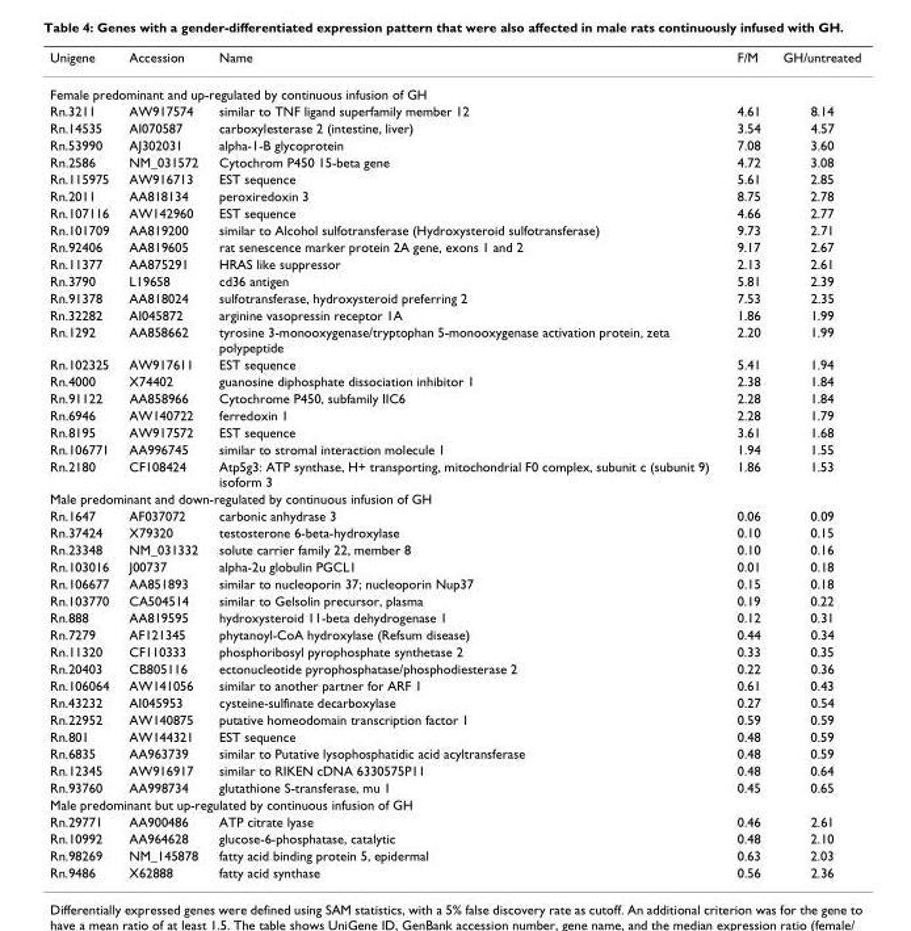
<table><thead><tr><td>Unigene</td><td>Accession</td><td>Name</td><td>F/M</td><td>GH/untreated</td></tr></thead><tbody><tr><td colspan="5">Female predominant and up-regulated by continuous infusion of GH</td></tr><tr><td>Rn.3211</td><td>AW917574</td><td>similar to TNF ligand superfamily member 12</td><td>4.61</td><td>8.14</td></tr><tr><td>Rn.14535</td><td>AI070587</td><td>carboxylesterase 2 (intestine, liver)</td><td>3.54</td><td>4.57</td></tr><tr><td>Rn.53990</td><td>AJ302031</td><td>alpha-1-B glycoprotein</td><td>7.08</td><td>3.60</td></tr><tr><td>Rn.2586</td><td>NM_031572</td><td>Cytochrom P450 15-beta gene</td><td>4.72</td><td>3.08</td></tr><tr><td>Rn.115975</td><td>AW916713</td><td>EST sequence</td><td>5.61</td><td>2.85</td></tr><tr><td>Rn.2011</td><td>AA818134</td><td>peroxiredoxin 3</td><td>8.75</td><td>2.78</td></tr><tr><td>Rn.107116</td><td>AW142960</td><td>EST sequence</td><td>4.66</td><td>2.77</td></tr><tr><td>Rn.101709</td><td>AA819200</td><td>similar to Alcohol sulfotransferase (Hydroxysteroid sulfotransferase)</td><td>9.73</td><td>2.71</td></tr><tr><td>Rn.92406</td><td>AA819605</td><td>rat senescence marker protein 2A gene, exons 1 and 2</td><td>9.17</td><td>2.67</td></tr><tr><td>Rn.11377</td><td>AA875291</td><td>HRAS like suppressor</td><td>2.13</td><td>2.61</td></tr><tr><td>Rn.3790</td><td>L19658</td><td>cd36 antigen</td><td>5.81</td><td>2.39</td></tr><tr><td>Rn.91378</td><td>AA818024</td><td>sulfotransferase, hydroxysteroid preferring 2</td><td>7.53</td><td>2.35</td></tr><tr><td>Rn.32282</td><td>AI045872</td><td>arginine vasopressin receptor 1A</td><td>1.86</td><td>1.99</td></tr><tr><td>Rn.1292</td><td>AA858662</td><td>tyrosine 3-monooxygenase/tryptophan 5-monooxygenase activation protein, zeta polypeptide</td><td>2.20</td><td>1.99</td></tr><tr><td>Rn.102325</td><td>AW917611</td><td>EST sequence</td><td>5.41</td><td>1.94</td></tr><tr><td>Rn.4000</td><td>X74402</td><td>guanosine diphosphate dissociation inhibitor 1</td><td>2.38</td><td>1.84</td></tr><tr><td>Rn.91122</td><td>AA858966</td><td>Cytochrome P450, subfamily IIC6</td><td>2.28</td><td>1.84</td></tr><tr><td>Rn.6946</td><td>AW140722</td><td>ferredoxin 1</td><td>2.28</td><td>1.79</td></tr><tr><td>Rn.8195</td><td>AW917572</td><td>EST sequence</td><td>3.61</td><td>1.68</td></tr><tr><td>Rn.106771</td><td>AA996745</td><td>similar to stromal interaction molecule 1</td><td>1.94</td><td>1.55</td></tr><tr><td>Rn.2180</td><td>CF108424</td><td>Atp5g3: ATP synthase, H+ transporting, mitochondrial F0 complex, subunit c (subunit 9) isoform 3</td><td>1.86</td><td>1.53</td></tr><tr><td colspan="5">Male predominant and down-regulated by continuous infusion of GH</td></tr><tr><td>Rn.1647</td><td>AF037072</td><td>carbonic anhydrase 3</td><td>0.06</td><td>0.09</td></tr><tr><td>Rn.37424</td><td>X79320</td><td>testosterone 6-beta-hydroxylase</td><td>0.10</td><td>0.15</td></tr><tr><td>Rn.23348</td><td>NM_031332</td><td>solute carrier family 22, member 8</td><td>0.10</td><td>0.16</td></tr><tr><td>Rn.103016</td><td>J00737</td><td>alpha-2u globulin PGCL1</td><td>0.01</td><td>0.18</td></tr><tr><td>Rn.106677</td><td>AA851893</td><td>similar to nucleoporin 37; nucleoporin Nup37</td><td>0.15</td><td>0.18</td></tr><tr><td>Rn.103770</td><td>CA504514</td><td>similar to Gelsolin precursor, plasma</td><td>0.19</td><td>0.22</td></tr><tr><td>Rn.888</td><td>AA819595</td><td>hydroxysteroid 11-beta dehydrogenase 1</td><td>0.12</td><td>0.31</td></tr><tr><td>Rn.7279</td><td>AF121345</td><td>phytanoyl-CoA hydroxylase (Refsum disease)</td><td>0.44</td><td>0.34</td></tr><tr><td>Rn.11320</td><td>CF110333</td><td>phosphoribosyl pyrophosphate synthetase 2</td><td>0.33</td><td>0.35</td></tr><tr><td>Rn.20403</td><td>CB805116</td><td>ectonucleotide pyrophosphatase/phosphodiesterase 2</td><td>0.22</td><td>0.36</td></tr><tr><td>Rn.106064</td><td>AW141056</td><td>similar to another partner for ARF 1</td><td>0.61</td><td>0.43</td></tr><tr><td>Rn.43232</td><td>AI045953</td><td>cysteine-sulfinate decarboxylase</td><td>0.27</td><td>0.54</td></tr><tr><td>Rn.22952</td><td>AW140875</td><td>putative homeodomain transcription factor 1</td><td>0.59</td><td>0.59</td></tr><tr><td>Rn.801</td><td>AW144321</td><td>EST sequence</td><td>0.48</td><td>0.59</td></tr><tr><td>Rn.6835</td><td>AA963739</td><td>similar to Putative lysophosphatidic acid acyltransferase</td><td>0.48</td><td>0.59</td></tr><tr><td>Rn.12345</td><td>AW916917</td><td>similar to RIKEN cDNA 6330575P11</td><td>0.48</td><td>0.64</td></tr><tr><td>Rn.93760</td><td>AA998734</td><td>glutathione S-transferase, mu 1</td><td>0.45</td><td>0.65</td></tr><tr><td colspan="5">Male predominant but up-regulated by continuous infusion of GH</td></tr><tr><td>Rn.29771</td><td>AA900486</td><td>ATP citrate lyase</td><td>0.46</td><td>2.61</td></tr><tr><td>Rn.10992</td><td>AA964628</td><td>glucose-6-phosphatase, catalytic</td><td>0.48</td><td>2.10</td></tr><tr><td>Rn.98269</td><td>NM_145878</td><td>fatty acid binding protein 5, epidermal</td><td>0.63</td><td>2.03</td></tr><tr><td>Rn.9486</td><td>X62888</td><td>fatty acid synthase</td><td>0.56</td><td>2.36</td></tr></tbody></table>